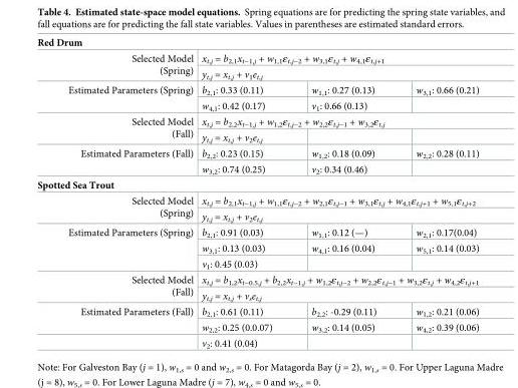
<table><tbody><tr><td colspan="4">Red Drum</td></tr><tr><td rowspan="2">Selected Model (Spring)</td><td colspan="3">x<sub>t,j</sub> = b<sub>2,1</sub>x<sub>t−1,j</sub> + w<sub>1,1</sub>ε<sub>t,j−2</sub> + w<sub>3,1</sub>ε<sub>t,j</sub> + w<sub>4,1</sub>ε<sub>t,j+1</sub></td></tr><tr><td colspan="3">y<sub>t,j</sub> = x<sub>t,j</sub> + v<sub>1</sub>e<sub>t,j</sub></td></tr><tr><td rowspan="2">Estimated Parameters (Spring)</td><td>b<sub>2,1</sub>: 0.33 (0.11)</td><td>w<sub>1,1</sub>: 0.27 (0.13)</td><td>w<sub>3,1</sub>: 0.66 (0.21)</td></tr><tr><td>w<sub>4,1</sub>: 0.42 (0.17)</td><td>v<sub>1</sub>: 0.66 (0.13)</td><td></td></tr><tr><td rowspan="2">Selected Model (Fall)</td><td colspan="3">x<sub>t,j</sub> = b<sub>2,2</sub>x<sub>t−1,j</sub> + w<sub>1,2</sub>ε<sub>t,j−2</sub> + w<sub>2,2</sub>ε<sub>t,j−1</sub> + w<sub>3,2</sub>ε<sub>t,j</sub></td></tr><tr><td>y<sub>t,j</sub> = x<sub>t,j</sub> + v<sub>2</sub>e<sub>t,j</sub></td><td></td><td></td></tr><tr><td rowspan="2">Estimated Parameters (Fall)</td><td>b<sub>2,2</sub>: 0.23 (0.15)</td><td>w<sub>1,2</sub>: 0.18 (0.09)</td><td>w<sub>2,2</sub>: 0.28 (0.11)</td></tr><tr><td>w<sub>3,2</sub>: 0.74 (0.25)</td><td>v<sub>2</sub>: 0.34 (0.46)</td><td></td></tr><tr><td colspan="4">Spotted Sea Trout</td></tr><tr><td rowspan="2">Selected Model (Spring)</td><td colspan="3">xt,j = b2,1xt−1,j + w1,1εt,j−2 + w2,1εt,j−1 + w3,1εt,j + w4,1εt,j+1 + w5,1εt,j+2</td></tr><tr><td colspan="3">y<sub>t,j</sub> = x<sub>t,j</sub> + v<sub>2</sub>e<sub>t,j</sub></td></tr><tr><td rowspan="3">Estimated Parameters (Spring)</td><td>b<sub>2,1</sub>: 0.91 (0.03)</td><td>w<sub>1,1</sub>: 0.12 (—)</td><td>w<sub>2,1</sub>: 0.17(0.04)</td></tr><tr><td>w<sub>3,1</sub>: 0.13 (0.03)</td><td>w<sub>4,1</sub>: 0.16 (0.04)</td><td>w<sub>5,1</sub>: 0.14 (0.03)</td></tr><tr><td>ν<sub>1</sub>: 0.45 (0.03)</td><td></td><td></td></tr><tr><td rowspan="2">Selected Model (Fall)</td><td colspan="3">xt,j = b1,2xt−0.5,j + b2,2xt−1,j + w1,2εt,j−2 + w2,2εt,j−1 + w3,2εt,j + w4,2εt,j+1</td></tr><tr><td colspan="3">y<sub>t,j</sub> = x<sub>t,j</sub> + v<sub>s</sub>e<sub>t,j</sub></td></tr><tr><td rowspan="3">Estimated Parameters (Fall)</td><td>b<sub>2,1</sub>: 0.61 (0.11)</td><td>b<sub>2,2</sub>: -0.29 (0.11)</td><td>w<sub>1,2</sub>: 0.21 (0.06)</td></tr><tr><td>w<sub>2,2</sub>: 0.25 (0.0.07)</td><td>w<sub>3,2</sub>: 0.14 (0.05)</td><td>w<sub>4,2</sub>: 0.39 (0.06)</td></tr><tr><td>v<sub>2</sub>: 0.41 (0.04)</td><td></td><td></td></tr></tbody></table>